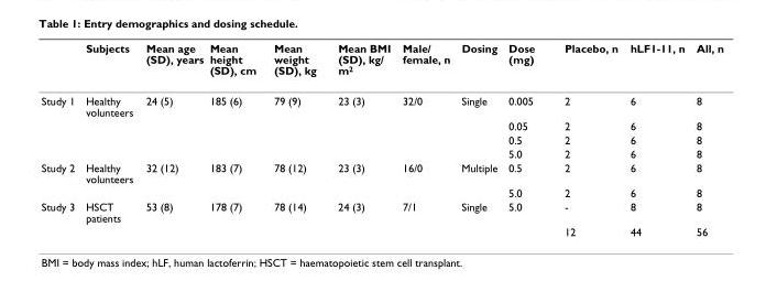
<table><thead><tr><td></td><td>Subjects</td><td>Mean age (SD), years</td><td>Mean height (SD), cm</td><td>Mean weight (SD), kg</td><td>Mean BMI (SD), kg/ m<sup>2</sup></td><td>Male/ female, n</td><td>Dosing</td><td>Dose (mg)</td><td>Placebo, n</td><td>hLF1-11, n</td><td>All, n</td></tr></thead><tbody><tr><td rowspan="4">Study 1</td><td>Healthy volunteers</td><td>24 (5)</td><td>185 (6)</td><td>79 (9)</td><td>23 (3)</td><td>32/0</td><td>Single</td><td>0.005</td><td>2</td><td>6</td><td>8</td></tr><tr><td></td><td></td><td></td><td></td><td></td><td></td><td></td><td>0.05</td><td>2</td><td>6</td><td>8</td></tr><tr><td></td><td></td><td></td><td></td><td></td><td></td><td></td><td>0.5</td><td>2</td><td>6</td><td>8</td></tr><tr><td></td><td></td><td></td><td></td><td></td><td></td><td></td><td>5.0</td><td>2</td><td>6</td><td>8</td></tr><tr><td rowspan="2">Study 2</td><td>Healthy volunteers</td><td>32 (12)</td><td>183 (7)</td><td>78 (12)</td><td>23 (3)</td><td>16/0</td><td>Multiple</td><td>0.5</td><td>2</td><td>6</td><td>8</td></tr><tr><td></td><td></td><td></td><td></td><td></td><td></td><td></td><td>5.0</td><td>2</td><td>6</td><td>8</td></tr><tr><td rowspan="2">Study 3</td><td>HSCT patients</td><td>53 (8)</td><td>178 (7)</td><td>78 (14)</td><td>24 (3)</td><td>7/1</td><td>Single</td><td>5.0</td><td>-</td><td>8</td><td>8</td></tr><tr><td></td><td></td><td></td><td></td><td></td><td></td><td></td><td></td><td>12</td><td>44</td><td>56</td></tr></tbody></table>